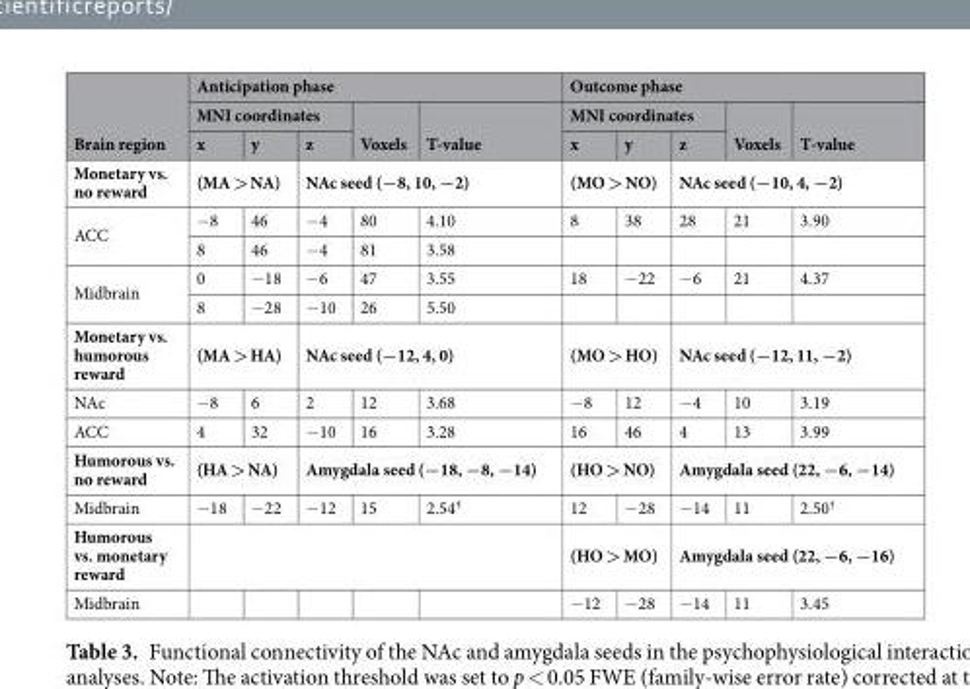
<table><thead><tr><td rowspan="3">Brain region</td><td colspan="5">Anticipation phase</td><td colspan="5">Outcome phase</td></tr><tr><td colspan="3">MNI coordinates</td><td rowspan="2">Voxels</td><td rowspan="2">T-value</td><td colspan="3">MNI coordinates</td><td rowspan="2">Voxels</td><td rowspan="2">T-value</td></tr><tr><td>x</td><td>y</td><td>z</td><td>x</td><td>y</td><td>z</td></tr></thead><tbody><tr><td>Monetary vs. no reward</td><td colspan="2">(MA &gt; NA)</td><td colspan="3">NAc seed (−8, 10, −2)</td><td colspan="2">(MO &gt; NO)</td><td colspan="3">NAc seed (−10, 4, −2)</td></tr><tr><td rowspan="2">ACC</td><td>−8</td><td>46</td><td>−4</td><td>80</td><td>4.10</td><td>8</td><td>38</td><td>28</td><td>21</td><td>3.90</td></tr><tr><td>8</td><td>46</td><td>−4</td><td>81</td><td>3.58</td><td></td><td></td><td></td><td></td><td></td></tr><tr><td rowspan="2">Midbrain</td><td>0</td><td>−18</td><td>−6</td><td>47</td><td>3.55</td><td>18</td><td>−22</td><td>−6</td><td>21</td><td>4.37</td></tr><tr><td>8</td><td>−28</td><td>−10</td><td>26</td><td>5.50</td><td></td><td></td><td></td><td></td><td></td></tr><tr><td>Monetary vs. humorous reward</td><td colspan="2">(MA &gt; HA)</td><td colspan="3">NAc seed (−12, 4, 0)</td><td colspan="2">(MO &gt; HO)</td><td colspan="3">NAc seed (−12, 11, −2)</td></tr><tr><td>NAc</td><td>−8</td><td>6</td><td>2</td><td>12</td><td>3.68</td><td>−8</td><td>12</td><td>−4</td><td>10</td><td>3.19</td></tr><tr><td>ACC</td><td>4</td><td>32</td><td>−10</td><td>16</td><td>3.28</td><td>16</td><td>46</td><td>4</td><td>13</td><td>3.99</td></tr><tr><td>Humorous vs. no reward</td><td colspan="2">(HA &gt; NA)</td><td colspan="3">Amygdala seed (−18, −8, −14)</td><td colspan="2">(HO &gt; NO)</td><td colspan="3">Amygdala seed (22, −6, −14)</td></tr><tr><td>Midbrain</td><td>−18</td><td>−22</td><td>−12</td><td>15</td><td>2.54<sup>†</sup></td><td>12</td><td>−28</td><td>−14</td><td>11</td><td>2.50<sup>†</sup></td></tr><tr><td>Humorous vs. monetary reward</td><td colspan="5"></td><td colspan="2">(HO &gt; MO)</td><td colspan="3">Amygdala seed (22, −6, −16)</td></tr><tr><td>Midbrain</td><td></td><td></td><td></td><td></td><td></td><td>−12</td><td>−28</td><td>−14</td><td>11</td><td>3.45</td></tr></tbody></table>